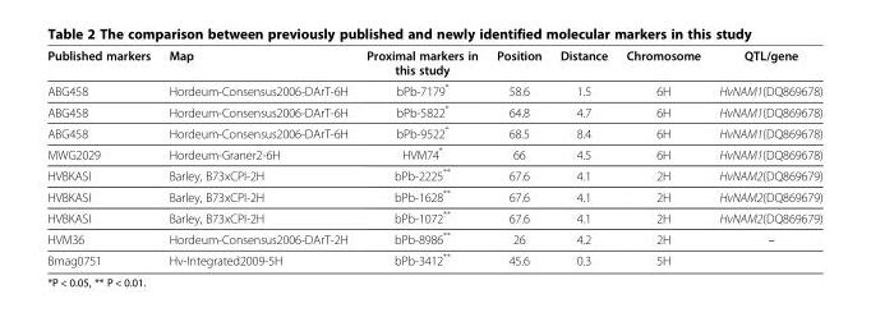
<table><thead><tr><td>Published markers</td><td>Map</td><td>Proximal markers in this study</td><td>Position</td><td>Distance</td><td>Chromosome</td><td>QTL/gene</td></tr></thead><tbody><tr><td>ABG458</td><td>Hordeum-Consensus2006-DArT-6H</td><td>bPb-7179*</td><td>58.6</td><td>1.5</td><td>6H</td><td>HvNAM1(DQ869678)</td></tr><tr><td>ABG458</td><td>Hordeum-Consensus2006-DArT-6H</td><td>bPb-5822*</td><td>64.8</td><td>4.7</td><td>6H</td><td>HvNAM1(DQ869678)</td></tr><tr><td>ABG458</td><td>Hordeum-Consensus2006-DArT-6H</td><td>bPb-9522*</td><td>68.5</td><td>8.4</td><td>6H</td><td>HvNAM1(DQ869678)</td></tr><tr><td>MWG2029</td><td>Hordeum-Graner2-6H</td><td>HVM74*</td><td>66</td><td>4.5</td><td>6H</td><td>HvNAM1(DQ869678)</td></tr><tr><td>HVBKASI</td><td>Barley, B73xCPI-2H</td><td>bPb-2225**</td><td>67.6</td><td>4.1</td><td>2H</td><td>HvNAM2(DQ869679)</td></tr><tr><td>HVBKASI</td><td>Barley, B73xCPI-2H</td><td>bPb-1628**</td><td>67.6</td><td>4.1</td><td>2H</td><td>HvNAM2(DQ869679)</td></tr><tr><td>HVBKASI</td><td>Barley, B73xCPI-2H</td><td>bPb-1072**</td><td>67.6</td><td>4.1</td><td>2H</td><td>HvNAM2(DQ869679)</td></tr><tr><td>HVM36</td><td>Hordeum-Consensus2006-DArT-2H</td><td>bPb-8986**</td><td>26</td><td>4.2</td><td>2H</td><td>̶</td></tr><tr><td>Bmag0751</td><td>Hv-Integrated2009-5H</td><td>bPb-3412**</td><td>45.6</td><td>0.3</td><td>5H</td><td></td></tr></tbody></table>